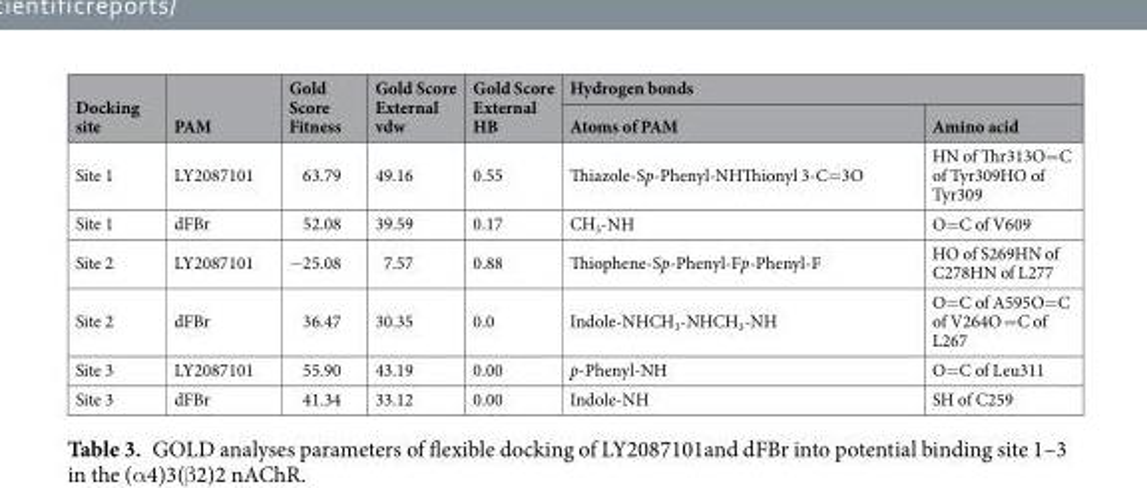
<table><thead><tr><td rowspan="2">Docking site</td><td rowspan="2">PAM</td><td rowspan="2">Gold Score Fitness</td><td rowspan="2">Gold Score External vdw</td><td rowspan="2">Gold Score External HB</td><td colspan="2">Hydrogen bonds</td></tr><tr><td>Atoms of PAM</td><td>Amino acid</td></tr></thead><tbody><tr><td>Site 1</td><td>LY2087101</td><td>63.79</td><td>49.16</td><td>0.55</td><td>Thiazole-Sp-Phenyl-NHThionyl 3-C=3O</td><td>HN of Thr313O=C of Tyr309HO of Tyr309</td></tr><tr><td>Site 1</td><td>dFBr</td><td>52.08</td><td>39.59</td><td>0.17</td><td>CH<sub>3</sub>-NH</td><td>O=C of V609</td></tr><tr><td>Site 2</td><td>LY2087101</td><td>−25.08</td><td>7.57</td><td>0.88</td><td>Thiophene-Sp-Phenyl-Fp-Phenyl-F</td><td>HO of S269HN of C278HN of L277</td></tr><tr><td>Site 2</td><td>dFBr</td><td>36.47</td><td>30.35</td><td>0.0</td><td>Indole-NHCH<sub>3</sub>-NHCH<sub>3</sub>-NH</td><td>O=C of A595O=C of V264O =C of L267</td></tr><tr><td>Site 3</td><td>LY2087101</td><td>55.90</td><td>43.19</td><td>0.00</td><td>p-Phenyl-NH</td><td>O=C of Leu311</td></tr><tr><td>Site 3</td><td>dFBr</td><td>41.34</td><td>33.12</td><td>0.00</td><td>Indole-NH</td><td>SH of C259</td></tr></tbody></table>